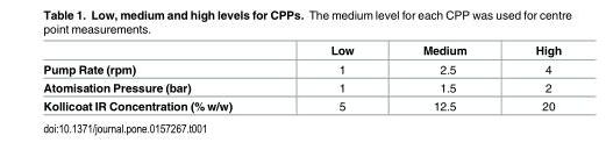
<table><thead><tr><td></td><td>Low</td><td>Medium</td><td>High</td></tr></thead><tbody><tr><td>Pump Rate (rpm)</td><td>1</td><td>2.5</td><td>4</td></tr><tr><td>Atomisation Pressure (bar)</td><td>1</td><td>1.5</td><td>2</td></tr><tr><td>Kollicoat IR Concentration (% w/w)</td><td>5</td><td>12.5</td><td>20</td></tr></tbody></table>